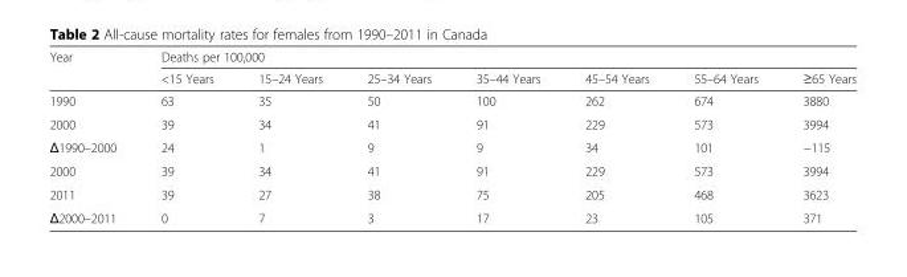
<table><thead><tr><td rowspan="2">Year</td><td colspan="7">Deaths per 100,000</td></tr><tr><td>&lt;15 Years</td><td>15–24 Years</td><td>25–34 Years</td><td>35–44 Years</td><td>45–54 Years</td><td>55–64 Years</td><td>≥65 Years</td></tr></thead><tbody><tr><td>1990</td><td>63</td><td>35</td><td>50</td><td>100</td><td>262</td><td>674</td><td>3880</td></tr><tr><td>2000</td><td>39</td><td>34</td><td>41</td><td>91</td><td>229</td><td>573</td><td>3994</td></tr><tr><td>Δ1990–2000</td><td>24</td><td>1</td><td>9</td><td>9</td><td>34</td><td>101</td><td>−115</td></tr><tr><td>2000</td><td>39</td><td>34</td><td>41</td><td>91</td><td>229</td><td>573</td><td>3994</td></tr><tr><td>2011</td><td>39</td><td>27</td><td>38</td><td>75</td><td>205</td><td>468</td><td>3623</td></tr><tr><td>Δ2000–2011</td><td>0</td><td>7</td><td>3</td><td>17</td><td>23</td><td>105</td><td>371</td></tr></tbody></table>